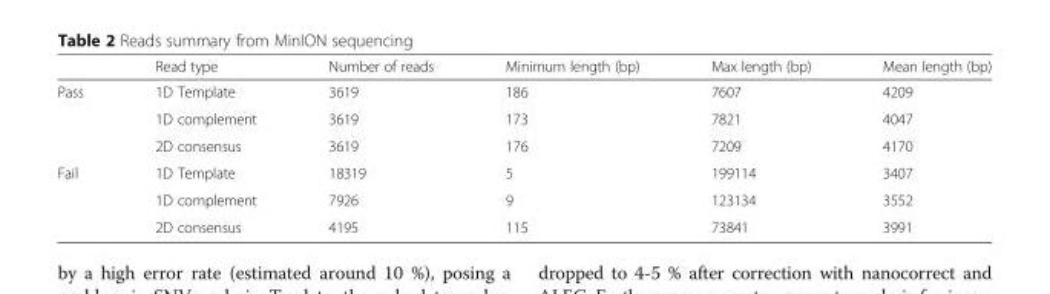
<table><thead><tr><td></td><td>Read type</td><td>Number of reads</td><td>Minimum length (bp)</td><td>Max length (bp)</td><td>Mean length (bp)</td></tr></thead><tbody><tr><td rowspan="3">Pass</td><td>1D Template</td><td>3619</td><td>186</td><td>7607</td><td>4209</td></tr><tr><td>1D complement</td><td>3619</td><td>173</td><td>7821</td><td>4047</td></tr><tr><td>2D consensus</td><td>3619</td><td>176</td><td>7209</td><td>4170</td></tr><tr><td rowspan="3">Fail</td><td>1D Template</td><td>18319</td><td>5</td><td>199114</td><td>3407</td></tr><tr><td>1D complement</td><td>7926</td><td>9</td><td>123134</td><td>3552</td></tr><tr><td>2D consensus</td><td>4195</td><td>115</td><td>73841</td><td>3991</td></tr></tbody></table>